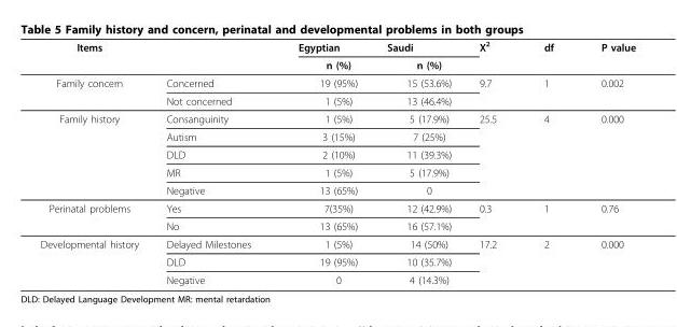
<table><thead><tr><td rowspan="2">Items</td><td rowspan="2"></td><td rowspan="2">Egyptian n (%)</td><td rowspan="2">Saudi n (%)</td><td rowspan="2">X2</td><td rowspan="2">df</td><td rowspan="2">P value</td></tr><tr></tr></thead><tbody><tr><td rowspan="2">Family concern</td><td>Concerned</td><td>19 (95%)</td><td>15 (53.6%)</td><td>9.7</td><td>1</td><td>0.002</td></tr><tr><td>Not concerned</td><td>1 (5%)</td><td>13 (46.4%)</td><td></td><td></td><td></td></tr><tr><td rowspan="5">Family history</td><td>Consanguinity</td><td>1 (5%)</td><td>5 (17.9%)</td><td>25.5</td><td>4</td><td>0.000</td></tr><tr><td>Autism</td><td>3 (15%)</td><td>7 (25%)</td><td></td><td></td><td></td></tr><tr><td>DLD</td><td>2 (10%)</td><td>11 (39.3%)</td><td></td><td></td><td></td></tr><tr><td>MR</td><td>1 (5%)</td><td>5 (17.9%)</td><td></td><td></td><td></td></tr><tr><td>Negative</td><td>13 (65%)</td><td>0</td><td></td><td></td><td></td></tr><tr><td rowspan="2">Perinatal problems</td><td>Yes</td><td>7(35%)</td><td>12 (42.9%)</td><td>0.3</td><td>1</td><td>0.76</td></tr><tr><td>No</td><td>13 (65%)</td><td>16 (57.1%)</td><td></td><td></td><td></td></tr><tr><td rowspan="3">Developmental history</td><td>Delayed Milestones</td><td>1 (5%)</td><td>14 (50%)</td><td>17.2</td><td>2</td><td>0.000</td></tr><tr><td>DLD</td><td>19 (95%)</td><td>10 (35.7%)</td><td></td><td></td><td></td></tr><tr><td>Negative</td><td>0</td><td>4 (14.3%)</td><td></td><td></td><td></td></tr></tbody></table>